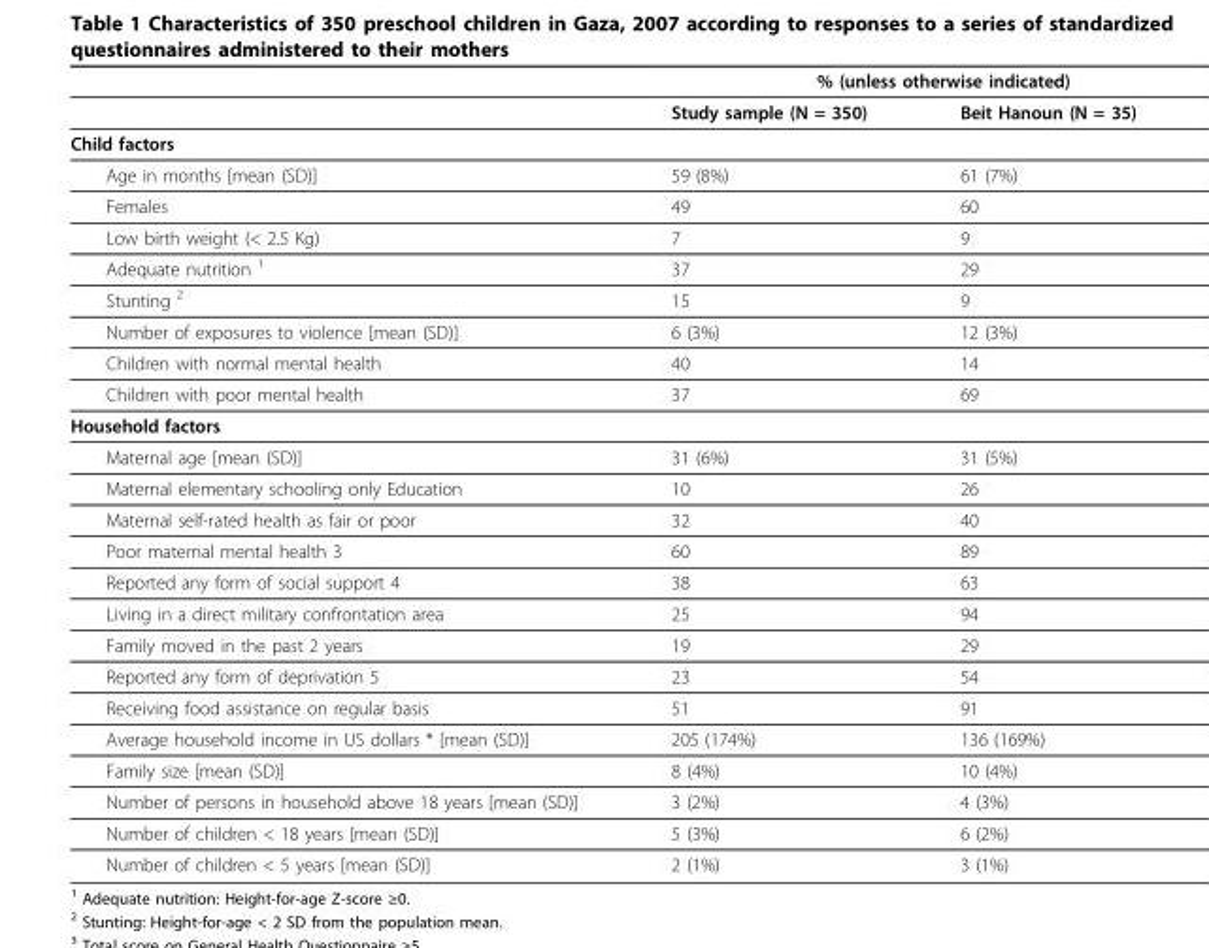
<table><thead><tr><td rowspan="2"></td><td colspan="2">% (unless otherwise indicated)</td></tr><tr><td>Study sample (N = 350)</td><td>Beit Hanoun (N = 35)</td></tr></thead><tbody><tr><td colspan="3">Child factors</td></tr><tr><td>Age in months [mean (SD)]</td><td>59 (8%)</td><td>61 (7%)</td></tr><tr><td>Females</td><td>49</td><td>60</td></tr><tr><td>Low birth weight (&lt; 2.5 Kg)</td><td>7</td><td>9</td></tr><tr><td>Adequate nutrition <sup>1</sup></td><td>37</td><td>29</td></tr><tr><td>Stunting <sup>2</sup></td><td>15</td><td>9</td></tr><tr><td>Number of exposures to violence [mean (SD)]</td><td>6 (3%)</td><td>12 (3%)</td></tr><tr><td>Children with normal mental health</td><td>40</td><td>14</td></tr><tr><td>Children with poor mental health</td><td>37</td><td>69</td></tr><tr><td colspan="3">Household factors</td></tr><tr><td>Maternal age [mean (SD)]</td><td>31 (6%)</td><td>31 (5%)</td></tr><tr><td>Maternal elementary schooling only Education</td><td>10</td><td>26</td></tr><tr><td>Maternal self-rated health as fair or poor</td><td>32</td><td>40</td></tr><tr><td>Poor maternal mental health 3</td><td>60</td><td>89</td></tr><tr><td>Reported any form of social support 4</td><td>38</td><td>63</td></tr><tr><td>Living in a direct military confrontation area</td><td>25</td><td>94</td></tr><tr><td>Family moved in the past 2 years</td><td>19</td><td>29</td></tr><tr><td>Reported any form of deprivation 5</td><td>23</td><td>54</td></tr><tr><td>Receiving food assistance on regular basis</td><td>51</td><td>91</td></tr><tr><td>Average household income in US dollars * [mean (SD)]</td><td>205 (174%)</td><td>136 (169%)</td></tr><tr><td>Family size [mean (SD)]</td><td>8 (4%)</td><td>10 (4%)</td></tr><tr><td>Number of persons in household above 18 years [mean (SD)]</td><td>3 (2%)</td><td>4 (3%)</td></tr><tr><td>Number of children &lt; 18 years [mean (SD)]</td><td>5 (3%)</td><td>6 (2%)</td></tr><tr><td>Number of children &lt; 5 years [mean (SD)]</td><td>2 (1%)</td><td>3 (1%)</td></tr></tbody></table>